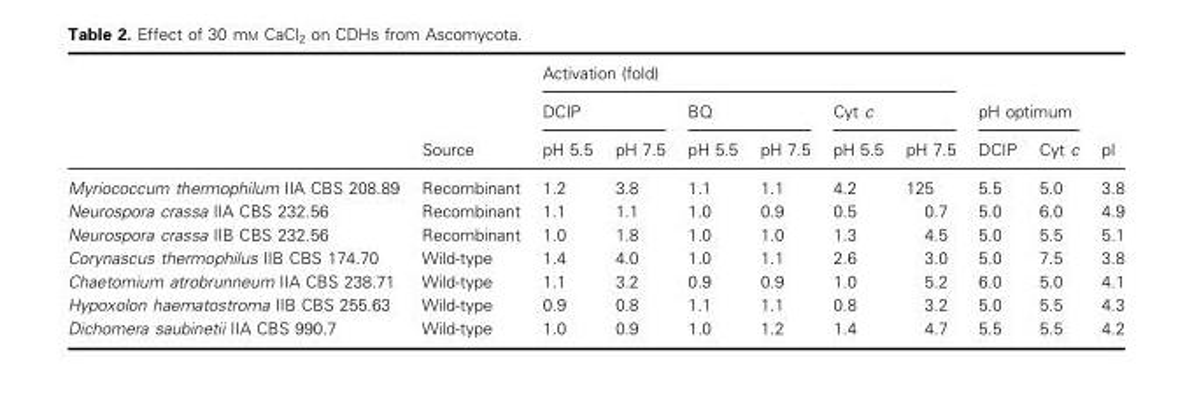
<table><thead><tr><td rowspan="3"></td><td rowspan="3">Source</td><td colspan="9">Activation (fold)</td></tr><tr><td colspan="2">DCIP</td><td colspan="2">BQ</td><td colspan="2">Cyt c</td><td colspan="3">pH optimum</td></tr><tr><td>pH 5.5</td><td>pH 7.5</td><td>pH 5.5</td><td>pH 7.5</td><td>pH 5.5</td><td>pH 7.5</td><td>DCIP</td><td>Cyt c</td><td>pI</td></tr></thead><tbody><tr><td>Myriococcum thermophilum IIA CBS 208.89</td><td>Recombinant</td><td>1.2</td><td>3.8</td><td>1.1</td><td>1.1</td><td>4.2</td><td>125</td><td>5.5</td><td>5.0</td><td>3.8</td></tr><tr><td>Neurospora crassa IIA CBS 232.56</td><td>Recombinant</td><td>1.1</td><td>1.1</td><td>1.0</td><td>0.9</td><td>0.5</td><td>0.7</td><td>5.0</td><td>6.0</td><td>4.9</td></tr><tr><td>Neurospora crassa IIB CBS 232.56</td><td>Recombinant</td><td>1.0</td><td>1.8</td><td>1.0</td><td>1.0</td><td>1.3</td><td>4.5</td><td>5.0</td><td>5.5</td><td>5.1</td></tr><tr><td>Corynascus thermophilus IIB CBS 174.70</td><td>Wild-type</td><td>1.4</td><td>4.0</td><td>1.0</td><td>1.1</td><td>2.6</td><td>3.0</td><td>5.0</td><td>7.5</td><td>3.8</td></tr><tr><td>Chaetomium atrobrunneum IIA CBS 238.71</td><td>Wild-type</td><td>1.1</td><td>3.2</td><td>0.9</td><td>0.9</td><td>1.0</td><td>5.2</td><td>6.0</td><td>5.0</td><td>4.1</td></tr><tr><td>Hypoxolon haematostroma IIB CBS 255.63</td><td>Wild-type</td><td>0.9</td><td>0.8</td><td>1.1</td><td>1.1</td><td>0.8</td><td>3.2</td><td>5.0</td><td>5.5</td><td>4.3</td></tr><tr><td>Dichomera saubinetii IIA CBS 990.7</td><td>Wild-type</td><td>1.0</td><td>0.9</td><td>1.0</td><td>1.2</td><td>1.4</td><td>4.7</td><td>5.5</td><td>5.5</td><td>4.2</td></tr></tbody></table>